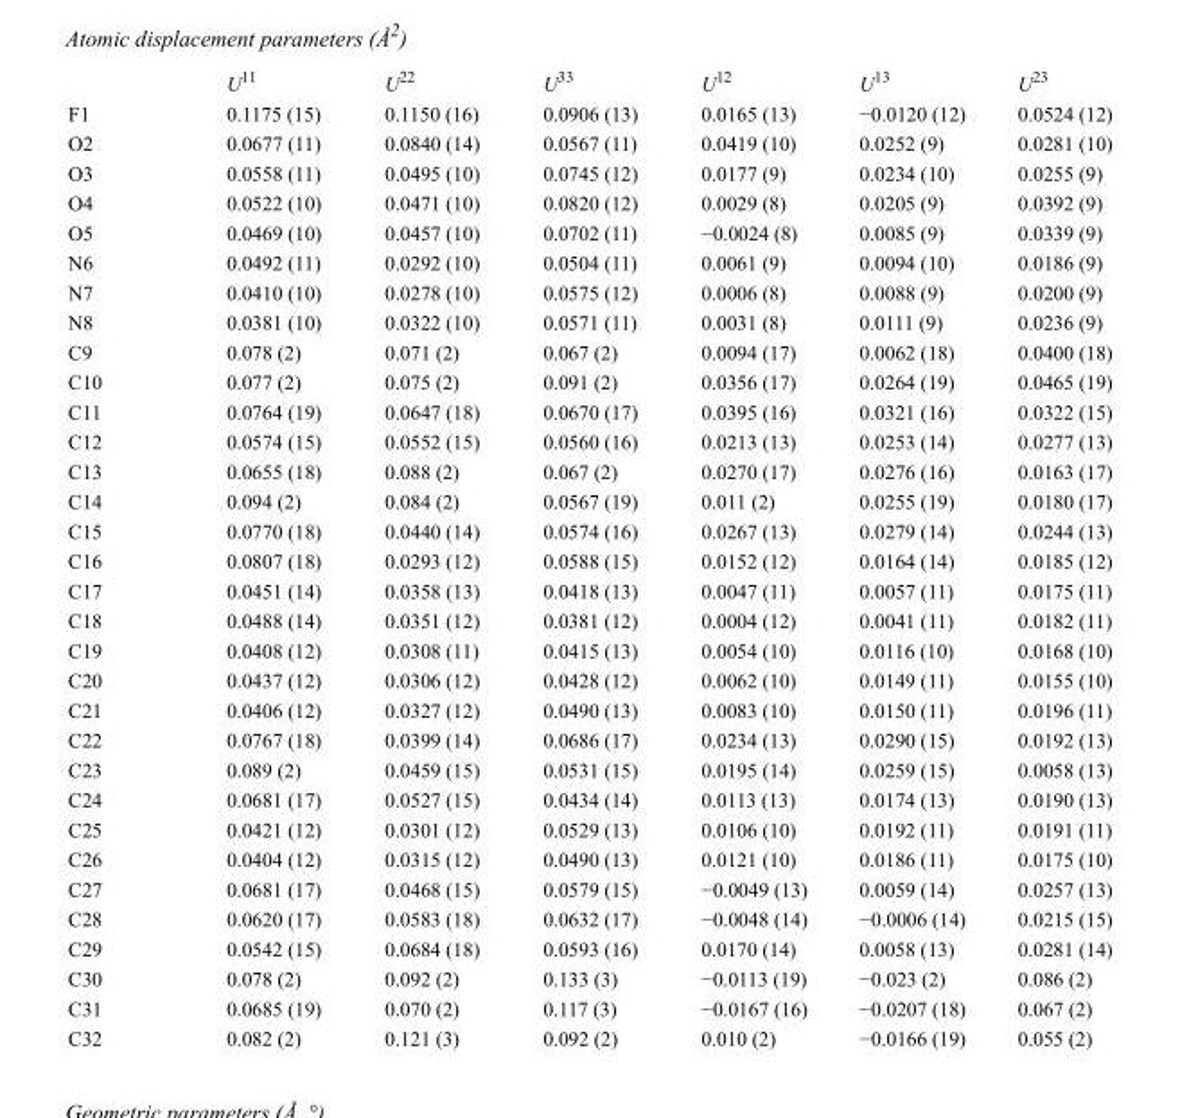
<table><thead><tr><td></td><td>U<sup>11</sup></td><td>U<sup>22</sup></td><td>U<sup>33</sup></td><td>U<sup>12</sup></td><td>U<sup>13</sup></td><td>U<sup>23</sup></td></tr></thead><tbody><tr><td>F1</td><td>0.1175 (15)</td><td>0.1150 (16)</td><td>0.0906 (13)</td><td>0.0165 (13)</td><td>−0.0120 (12)</td><td>0.0524 (12)</td></tr><tr><td>O2</td><td>0.0677 (11)</td><td>0.0840 (14)</td><td>0.0567 (11)</td><td>0.0419 (10)</td><td>0.0252 (9)</td><td>0.0281 (10)</td></tr><tr><td>O3</td><td>0.0558 (11)</td><td>0.0495 (10)</td><td>0.0745 (12)</td><td>0.0177 (9)</td><td>0.0234 (10)</td><td>0.0255 (9)</td></tr><tr><td>O4</td><td>0.0522 (10)</td><td>0.0471 (10)</td><td>0.0820 (12)</td><td>0.0029 (8)</td><td>0.0205 (9)</td><td>0.0392 (9)</td></tr><tr><td>O5</td><td>0.0469 (10)</td><td>0.0457 (10)</td><td>0.0702 (11)</td><td>−0.0024 (8)</td><td>0.0085 (9)</td><td>0.0339 (9)</td></tr><tr><td>N6</td><td>0.0492 (11)</td><td>0.0292 (10)</td><td>0.0504 (11)</td><td>0.0061 (9)</td><td>0.0094 (10)</td><td>0.0186 (9)</td></tr><tr><td>N7</td><td>0.0410 (10)</td><td>0.0278 (10)</td><td>0.0575 (12)</td><td>0.0006 (8)</td><td>0.0088 (9)</td><td>0.0200 (9)</td></tr><tr><td>N8</td><td>0.0381 (10)</td><td>0.0322 (10)</td><td>0.0571 (11)</td><td>0.0031 (8)</td><td>0.0111 (9)</td><td>0.0236 (9)</td></tr><tr><td>C9</td><td>0.078 (2)</td><td>0.071 (2)</td><td>0.067 (2)</td><td>0.0094 (17)</td><td>0.0062 (18)</td><td>0.0400 (18)</td></tr><tr><td>C10</td><td>0.077 (2)</td><td>0.075 (2)</td><td>0.091 (2)</td><td>0.0356 (17)</td><td>0.0264 (19)</td><td>0.0465 (19)</td></tr><tr><td>C11</td><td>0.0764 (19)</td><td>0.0647 (18)</td><td>0.0670 (17)</td><td>0.0395 (16)</td><td>0.0321 (16)</td><td>0.0322 (15)</td></tr><tr><td>C12</td><td>0.0574 (15)</td><td>0.0552 (15)</td><td>0.0560 (16)</td><td>0.0213 (13)</td><td>0.0253 (14)</td><td>0.0277 (13)</td></tr><tr><td>C13</td><td>0.0655 (18)</td><td>0.088 (2)</td><td>0.067 (2)</td><td>0.0270 (17)</td><td>0.0276 (16)</td><td>0.0163 (17)</td></tr><tr><td>C14</td><td>0.094 (2)</td><td>0.084 (2)</td><td>0.0567 (19)</td><td>0.011 (2)</td><td>0.0255 (19)</td><td>0.0180 (17)</td></tr><tr><td>C15</td><td>0.0770 (18)</td><td>0.0440 (14)</td><td>0.0574 (16)</td><td>0.0267 (13)</td><td>0.0279 (14)</td><td>0.0244 (13)</td></tr><tr><td>C16</td><td>0.0807 (18)</td><td>0.0293 (12)</td><td>0.0588 (15)</td><td>0.0152 (12)</td><td>0.0164 (14)</td><td>0.0185 (12)</td></tr><tr><td>C17</td><td>0.0451 (14)</td><td>0.0358 (13)</td><td>0.0418 (13)</td><td>0.0047 (11)</td><td>0.0057 (11)</td><td>0.0175 (11)</td></tr><tr><td>C18</td><td>0.0488 (14)</td><td>0.0351 (12)</td><td>0.0381 (12)</td><td>0.0004 (12)</td><td>0.0041 (11)</td><td>0.0182 (11)</td></tr><tr><td>C19</td><td>0.0408 (12)</td><td>0.0308 (11)</td><td>0.0415 (13)</td><td>0.0054 (10)</td><td>0.0116 (10)</td><td>0.0168 (10)</td></tr><tr><td>C20</td><td>0.0437 (12)</td><td>0.0306 (12)</td><td>0.0428 (12)</td><td>0.0062 (10)</td><td>0.0149 (11)</td><td>0.0155 (10)</td></tr><tr><td>C21</td><td>0.0406 (12)</td><td>0.0327 (12)</td><td>0.0490 (13)</td><td>0.0083 (10)</td><td>0.0150 (11)</td><td>0.0196 (11)</td></tr><tr><td>C22</td><td>0.0767 (18)</td><td>0.0399 (14)</td><td>0.0686 (17)</td><td>0.0234 (13)</td><td>0.0290 (15)</td><td>0.0192 (13)</td></tr><tr><td>C23</td><td>0.089 (2)</td><td>0.0459 (15)</td><td>0.0531 (15)</td><td>0.0195 (14)</td><td>0.0259 (15)</td><td>0.0058 (13)</td></tr><tr><td>C24</td><td>0.0681 (17)</td><td>0.0527 (15)</td><td>0.0434 (14)</td><td>0.0113 (13)</td><td>0.0174 (13)</td><td>0.0190 (13)</td></tr><tr><td>C25</td><td>0.0421 (12)</td><td>0.0301 (12)</td><td>0.0529 (13)</td><td>0.0106 (10)</td><td>0.0192 (11)</td><td>0.0191 (11)</td></tr><tr><td>C26</td><td>0.0404 (12)</td><td>0.0315 (12)</td><td>0.0490 (13)</td><td>0.0121 (10)</td><td>0.0186 (11)</td><td>0.0175 (10)</td></tr><tr><td>C27</td><td>0.0681 (17)</td><td>0.0468 (15)</td><td>0.0579 (15)</td><td>−0.0049 (13)</td><td>0.0059 (14)</td><td>0.0257 (13)</td></tr><tr><td>C28</td><td>0.0620 (17)</td><td>0.0583 (18)</td><td>0.0632 (17)</td><td>−0.0048 (14)</td><td>−0.0006 (14)</td><td>0.0215 (15)</td></tr><tr><td>C29</td><td>0.0542 (15)</td><td>0.0684 (18)</td><td>0.0593 (16)</td><td>0.0170 (14)</td><td>0.0058 (13)</td><td>0.0281 (14)</td></tr><tr><td>C30</td><td>0.078 (2)</td><td>0.092 (2)</td><td>0.133 (3)</td><td>−0.0113 (19)</td><td>−0.023 (2)</td><td>0.086 (2)</td></tr><tr><td>C31</td><td>0.0685 (19)</td><td>0.070 (2)</td><td>0.117 (3)</td><td>−0.0167 (16)</td><td>−0.0207 (18)</td><td>0.067 (2)</td></tr><tr><td>C32</td><td>0.082 (2)</td><td>0.121 (3)</td><td>0.092 (2)</td><td>0.010 (2)</td><td>−0.0166 (19)</td><td>0.055 (2)</td></tr></tbody></table>